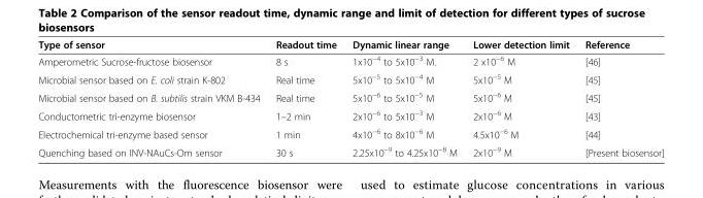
<table><thead><tr><td>Type of sensor</td><td>Readout time</td><td>Dynamic linear range</td><td>Lower detection limit</td><td>Reference</td></tr></thead><tbody><tr><td>Amperometric Sucrose-fructose biosensor</td><td>8 s</td><td>1x10<sup>−4</sup> to 5x10<sup>−3</sup> M.</td><td>2 x10<sup>−6</sup> M</td><td>[46]</td></tr><tr><td>Microbial sensor based on E. coli strain K-802</td><td>Real time</td><td>5x10<sup>−5</sup> to 5x10<sup>−4</sup> M</td><td>5x10<sup>−5</sup> M</td><td>[45]</td></tr><tr><td>Microbial sensor based on B. subtilis strain VKM B-434</td><td>Real time</td><td>5x10<sup>−6</sup> to 5x10<sup>−5</sup> M</td><td>5x10<sup>−6</sup> M</td><td>[45]</td></tr><tr><td>Conductometric tri-enzyme biosensor</td><td>1–2 min</td><td>2x10<sup>−6</sup> to 5x10<sup>−3</sup> M</td><td>2x10<sup>−6</sup> M</td><td>[43]</td></tr><tr><td>Electrochemical tri-enzyme based sensor</td><td>1 min</td><td>4x10<sup>−6</sup> to 8x10<sup>−6</sup> M</td><td>4.5x10<sup>−6</sup> M</td><td>[44]</td></tr><tr><td>Quenching based on INV-NAuCs-Om sensor</td><td>30 s</td><td>2.25x10<sup>−9</sup> to 4.25x10<sup>−8</sup> M</td><td>2x10<sup>−9</sup> M</td><td>[Present biosensor]</td></tr></tbody></table>